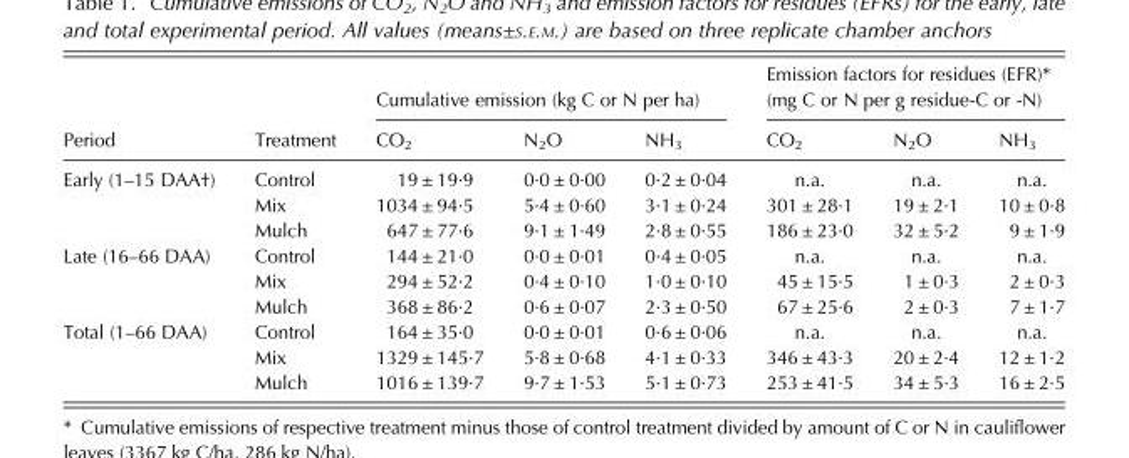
<table><thead><tr><td rowspan="2">Period</td><td rowspan="2">Treatment</td><td colspan="3">Cumulative emission (kg C or N per ha)</td><td colspan="3">Emission factors for residues (EFR)* (mg C or N per g residue-C or -N)</td></tr><tr><td>CO<sub>2</sub></td><td>N<sub>2</sub>O</td><td>NH<sub>3</sub></td><td>CO<sub>2</sub></td><td>N<sub>2</sub>O</td><td>NH<sub>3</sub></td></tr></thead><tbody><tr><td rowspan="3">Early (1–15 DAA†)</td><td>Control</td><td>19 ± 19·9</td><td>0·0 ± 0·00</td><td>0·2 ± 0·04</td><td>n.a.</td><td>n.a.</td><td>n.a.</td></tr><tr><td>Mix</td><td>1034 ± 94·5</td><td>5·4 ± 0·60</td><td>3·1 ± 0·24</td><td>301 ± 28·1</td><td>19 ± 2·1</td><td>10 ± 0·8</td></tr><tr><td>Mulch</td><td>647 ± 77·6</td><td>9·1 ± 1·49</td><td>2·8 ± 0·55</td><td>186 ± 23·0</td><td>32 ± 5·2</td><td>9 ± 1·9</td></tr><tr><td rowspan="3">Late (16–66 DAA)</td><td>Control</td><td>144 ± 21·0</td><td>0·0 ± 0·01</td><td>0·4 ± 0·05</td><td>n.a.</td><td>n.a.</td><td>n.a.</td></tr><tr><td>Mix</td><td>294 ± 52·2</td><td>0·4 ± 0·10</td><td>1·0 ± 0·10</td><td>45 ± 15·5</td><td>1 ± 0·3</td><td>2 ± 0·3</td></tr><tr><td>Mulch</td><td>368 ± 86·2</td><td>0·6 ± 0·07</td><td>2·3 ± 0·50</td><td>67 ± 25·6</td><td>2 ± 0·3</td><td>7 ± 1·7</td></tr><tr><td rowspan="3">Total (1–66 DAA)</td><td>Control</td><td>164 ± 35·0</td><td>0·0 ± 0·01</td><td>0·6 ± 0·06</td><td>n.a.</td><td>n.a.</td><td>n.a.</td></tr><tr><td>Mix</td><td>1329 ± 145·7</td><td>5·8 ± 0·68</td><td>4·1 ± 0·33</td><td>346 ± 43·3</td><td>20 ± 2·4</td><td>12 ± 1·2</td></tr><tr><td>Mulch</td><td>1016 ± 139·7</td><td>9·7 ± 1·53</td><td>5·1 ± 0·73</td><td>253 ± 41·5</td><td>34 ± 5·3</td><td>16 ± 2·5</td></tr></tbody></table>